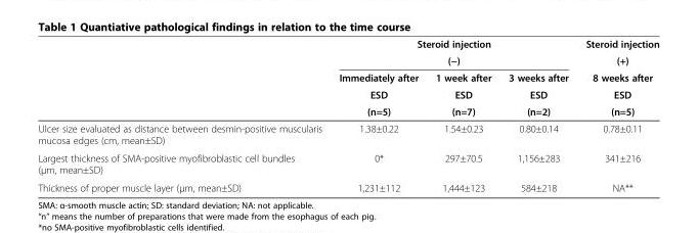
<table><thead><tr><td rowspan="5"></td><td rowspan="2" colspan="3">Steroid injection (−)</td><td rowspan="5">Steroid injection (+) 8 weeks after ESD (n=5)</td></tr><tr></tr><tr><td rowspan="3">Immediately after ESD (n=5)</td><td rowspan="3">1 week after ESD (n=7)</td><td rowspan="3">3 weeks after ESD (n=2)</td></tr><tr></tr><tr></tr></thead><tbody><tr><td>Ulcer size evaluated as distance between desmin-positive muscularis mucosa edges (cm, mean±SD)</td><td>1.38±0.22</td><td>1.54±0.23</td><td>0.80±0.14</td><td>0.78±0.11</td></tr><tr><td>Largest thickness of SMA-positive myofibroblastic cell bundles (μm, mean±SD)</td><td>0*</td><td>297±70.5</td><td>1,156±283</td><td>341±216</td></tr><tr><td>Thickness of proper muscle layer (μm, mean±SD)</td><td>1,231±112</td><td>1,444±123</td><td>584±218</td><td>NA**</td></tr></tbody></table>